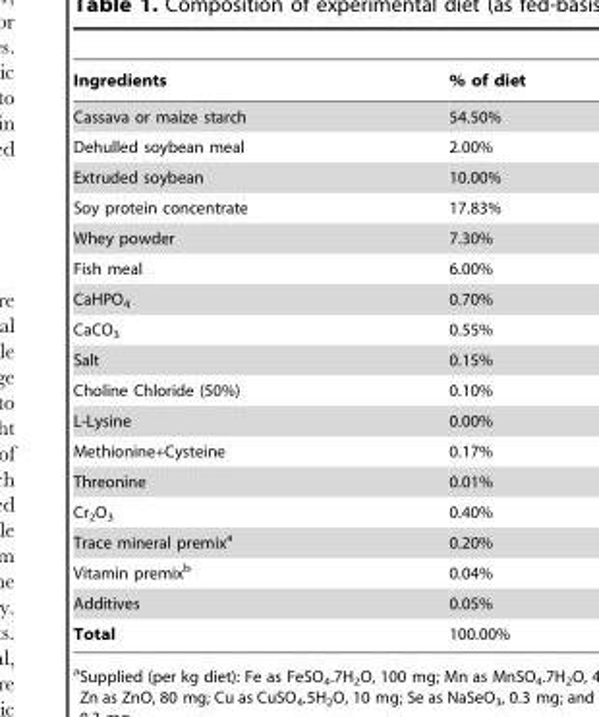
<table><thead><tr><td>Ingredients</td><td>% of diet</td></tr></thead><tbody><tr><td>Cassava or maize starch</td><td>54.50%</td></tr><tr><td>Dehulled soybean meal</td><td>2.00%</td></tr><tr><td>Extruded soybean</td><td>10.00%</td></tr><tr><td>Soy protein concentrate</td><td>17.83%</td></tr><tr><td>Whey powder</td><td>7.30%</td></tr><tr><td>Fish meal</td><td>6.00%</td></tr><tr><td>CaHPO<sub>4</sub></td><td>0.70%</td></tr><tr><td>CaCO<sub>3</sub></td><td>0.55%</td></tr><tr><td>Salt</td><td>0.15%</td></tr><tr><td>Choline Chloride (50%)</td><td>0.10%</td></tr><tr><td>L-Lysine</td><td>0.00%</td></tr><tr><td>Methionine+Cysteine</td><td>0.17%</td></tr><tr><td>Threonine</td><td>0.01%</td></tr><tr><td>Cr<sub>2</sub>O<sub>3</sub></td><td>0.40%</td></tr><tr><td>Trace mineral premix<sup>a</sup></td><td>0.20%</td></tr><tr><td>Vitamin premix<sup>b</sup></td><td>0.04%</td></tr><tr><td>Additives</td><td>0.05%</td></tr><tr><td>Total</td><td>100.00%</td></tr></tbody></table>